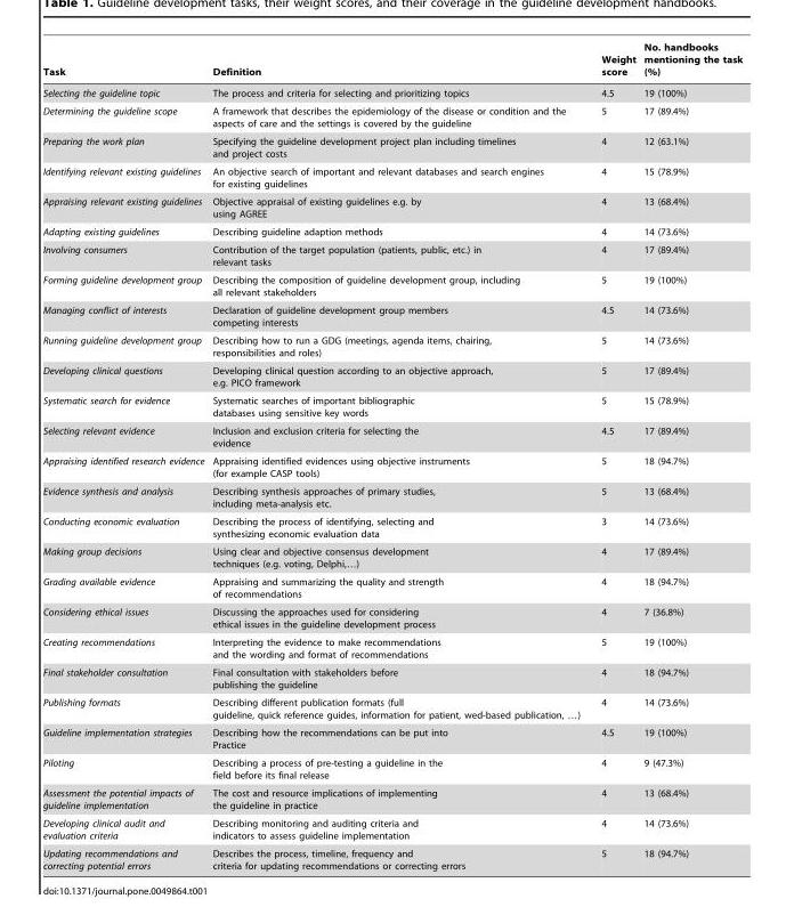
<table><thead><tr><td>Task</td><td>Definition</td><td>Weight score</td><td>No. handbooks mentioning the task (%)</td></tr></thead><tbody><tr><td>Selecting the guideline topic</td><td>The process and criteria for selecting and prioritizing topics</td><td>4.5</td><td>19 (100%)</td></tr><tr><td>Determining the guideline scope</td><td>A framework that describes the epidemiology of the disease or condition and the aspects of care and the settings is covered by the guideline</td><td>5</td><td>17 (89.4%)</td></tr><tr><td>Preparing the work plan</td><td>Specifying the guideline development project plan including timelines and project costs</td><td>4</td><td>12 (63.1%)</td></tr><tr><td>Identifying relevant existing guidelines</td><td>An objective search of important and relevant databases and search engines for existing guidelines</td><td>4</td><td>15 (78.9%)</td></tr><tr><td>Appraising relevant existing guidelines</td><td>Objective appraisal of existing guidelines e.g. by using AGREE</td><td>4</td><td>13 (68.4%)</td></tr><tr><td>Adapting existing guidelines</td><td>Describing guideline adaption methods</td><td>4</td><td>14 (73.6%)</td></tr><tr><td>Involving consumers</td><td>Contribution of the target population (patients, public, etc.) in relevant tasks</td><td>4</td><td>17 (89.4%)</td></tr><tr><td>Forming guideline development group</td><td>Describing the composition of guideline development group, including all relevant stakeholders</td><td>5</td><td>19 (100%)</td></tr><tr><td>Managing conflict of interests</td><td>Declaration of guideline development group members competing interests</td><td>4.5</td><td>14 (73.6%)</td></tr><tr><td>Running guideline development group</td><td>Describing how to run a GDG (meetings, agenda items, chairing, responsibilities and roles)</td><td>5</td><td>14 (73.6%)</td></tr><tr><td>Developing clinical questions</td><td>Developing clinical question according to an objective approach, e.g. PICO framework</td><td>5</td><td>17 (89.4%)</td></tr><tr><td>Systematic search for evidence</td><td>Systematic searches of important bibliographic databases using sensitive key words</td><td>5</td><td>15 (78.9%)</td></tr><tr><td>Selecting relevant evidence</td><td>Inclusion and exclusion criteria for selecting the evidence</td><td>4.5</td><td>17 (89.4%)</td></tr><tr><td>Appraising identified research evidence</td><td>Appraising identified evidences using objective instruments (for example CASP tools)</td><td>5</td><td>18 (94.7%)</td></tr><tr><td>Evidence synthesis and analysis</td><td>Describing synthesis approaches of primary studies, including meta-analysis etc.</td><td>5</td><td>13 (68.4%)</td></tr><tr><td>Conducting economic evaluation</td><td>Describing the process of identifying, selecting and synthesizing economic evaluation data</td><td>3</td><td>14 (73.6%)</td></tr><tr><td>Making group decisions</td><td>Using clear and objective consensus development techniques (e.g. voting, Delphi,…)</td><td>4</td><td>17 (89.4%)</td></tr><tr><td>Grading available evidence</td><td>Appraising and summarizing the quality and strength of recommendations</td><td>4</td><td>18 (94.7%)</td></tr><tr><td>Considering ethical issues</td><td>Discussing the approaches used for considering ethical issues in the guideline development process</td><td>4</td><td>7 (36.8%)</td></tr><tr><td>Creating recommendations</td><td>Interpreting the evidence to make recommendations and the wording and format of recommendations</td><td>5</td><td>19 (100%)</td></tr><tr><td>Final stakeholder consultation</td><td>Final consultation with stakeholders before publishing the guideline</td><td>4</td><td>18 (94.7%)</td></tr><tr><td>Publishing formats</td><td>Describing different publication formats (full guideline, quick reference guides, information for patient, wed-based publication, …)</td><td>4</td><td>14 (73.6%)</td></tr><tr><td>Guideline implementation strategies</td><td>Describing how the recommendations can be put into Practice</td><td>4.5</td><td>19 (100%)</td></tr><tr><td>Piloting</td><td>Describing a process of pre-testing a guideline in the field before its final release</td><td>4</td><td>9 (47.3%)</td></tr><tr><td>Assessment the potential impacts of guideline implementation</td><td>The cost and resource implications of implementing the guideline in practice</td><td>4</td><td>13 (68.4%)</td></tr><tr><td>Developing clinical audit and evaluation criteria</td><td>Describing monitoring and auditing criteria and indicators to assess guideline implementation</td><td>4</td><td>14 (73.6%)</td></tr><tr><td>Updating recommendations and correcting potential errors</td><td>Describes the process, timeline, frequency and criteria for updating recommendations or correcting errors</td><td>5</td><td>18 (94.7%)</td></tr></tbody></table>